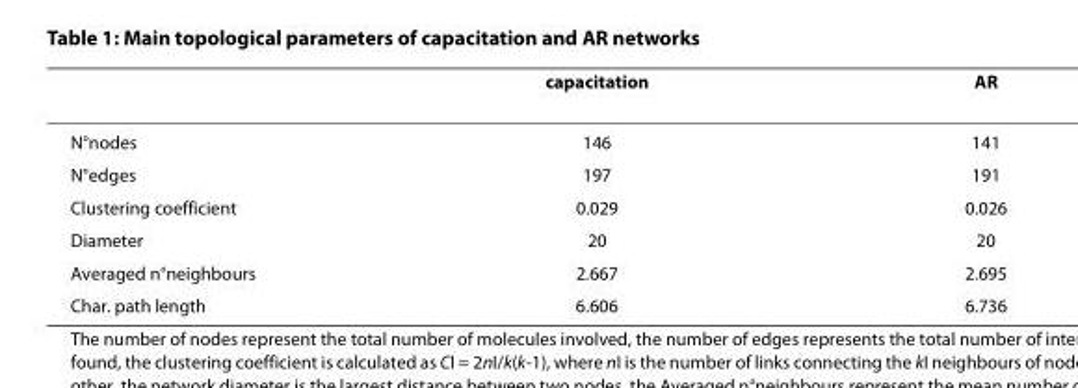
<table><thead><tr><td></td><td>capacitation</td><td>AR</td></tr></thead><tbody><tr><td>N°nodes</td><td>146</td><td>141</td></tr><tr><td>N°edges</td><td>197</td><td>191</td></tr><tr><td>Clustering coefficient</td><td>0.029</td><td>0.026</td></tr><tr><td>Diameter</td><td>20</td><td>20</td></tr><tr><td>Averaged n°neighbours</td><td>2.667</td><td>2.695</td></tr><tr><td>Char. path length</td><td>6.606</td><td>6.736</td></tr></tbody></table>